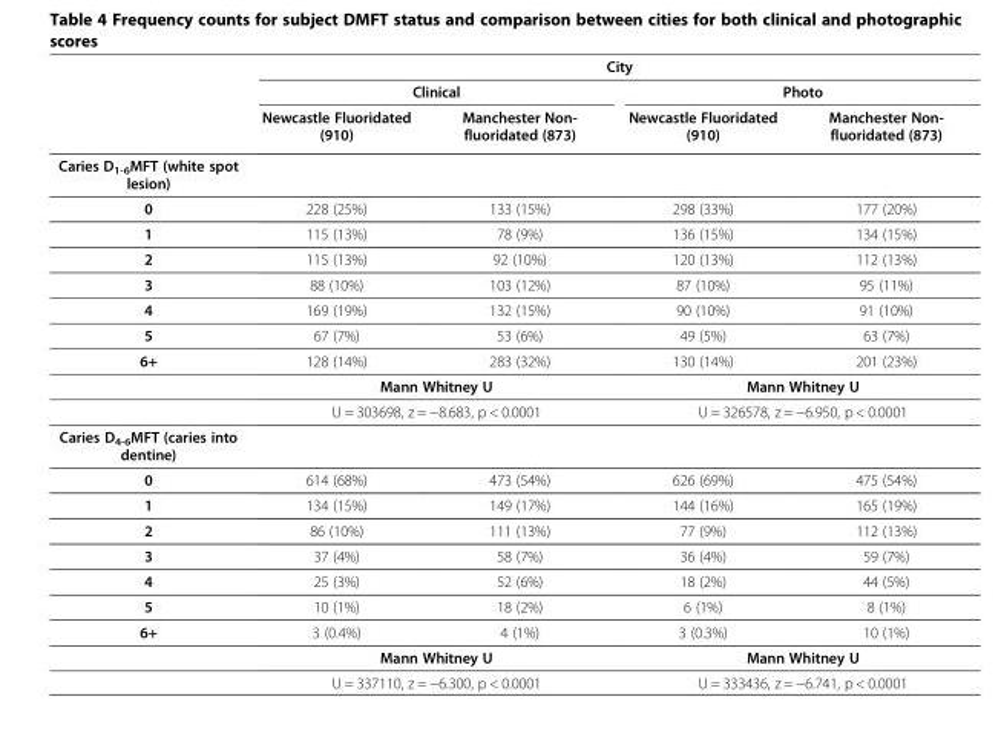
<table><thead><tr><td rowspan="3"></td><td colspan="4">City</td></tr><tr><td colspan="2">Clinical</td><td colspan="2">Photo</td></tr><tr><td>Newcastle Fluoridated (910)</td><td>Manchester Non- fluoridated (873)</td><td>Newcastle Fluoridated (910)</td><td>Manchester Non- fluoridated (873)</td></tr></thead><tbody><tr><td colspan="5">Caries D<sub>1-6</sub>MFT (white spot lesion)</td></tr><tr><td>0</td><td>228 (25%)</td><td>133 (15%)</td><td>298 (33%)</td><td>177 (20%)</td></tr><tr><td>1</td><td>115 (13%)</td><td>78 (9%)</td><td>136 (15%)</td><td>134 (15%)</td></tr><tr><td>2</td><td>115 (13%)</td><td>92 (10%)</td><td>120 (13%)</td><td>112 (13%)</td></tr><tr><td>3</td><td>88 (10%)</td><td>103 (12%)</td><td>87 (10%)</td><td>95 (11%)</td></tr><tr><td>4</td><td>169 (19%)</td><td>132 (15%)</td><td>90 (10%)</td><td>91 (10%)</td></tr><tr><td>5</td><td>67 (7%)</td><td>53 (6%)</td><td>49 (5%)</td><td>63 (7%)</td></tr><tr><td rowspan="3">6+</td><td>128 (14%)</td><td>283 (32%)</td><td>130 (14%)</td><td>201 (23%)</td></tr><tr><td colspan="2">Mann Whitney U</td><td colspan="2">Mann Whitney U</td></tr><tr><td colspan="2">U = 303698, z = −8.683, p &lt; 0.0001</td><td colspan="2">U = 326578, z = −6.950, p &lt; 0.0001</td></tr><tr><td colspan="5">Caries D<sub>4-6</sub>MFT (caries into dentine)</td></tr><tr><td>0</td><td>614 (68%)</td><td>473 (54%)</td><td>626 (69%)</td><td>475 (54%)</td></tr><tr><td>1</td><td>134 (15%)</td><td>149 (17%)</td><td>144 (16%)</td><td>165 (19%)</td></tr><tr><td>2</td><td>86 (10%)</td><td>111 (13%)</td><td>77 (9%)</td><td>112 (13%)</td></tr><tr><td>3</td><td>37 (4%)</td><td>58 (7%)</td><td>36 (4%)</td><td>59 (7%)</td></tr><tr><td>4</td><td>25 (3%)</td><td>52 (6%)</td><td>18 (2%)</td><td>44 (5%)</td></tr><tr><td>5</td><td>10 (1%)</td><td>18 (2%)</td><td>6 (1%)</td><td>8 (1%)</td></tr><tr><td rowspan="3">6+</td><td>3 (0.4%)</td><td>4 (1%)</td><td>3 (0.3%)</td><td>10 (1%)</td></tr><tr><td colspan="2">Mann Whitney U</td><td colspan="2">Mann Whitney U</td></tr><tr><td colspan="2">U = 337110, z = −6.300, p &lt; 0.0001</td><td colspan="2">U = 333436, z = −6.741, p &lt; 0.0001</td></tr></tbody></table>